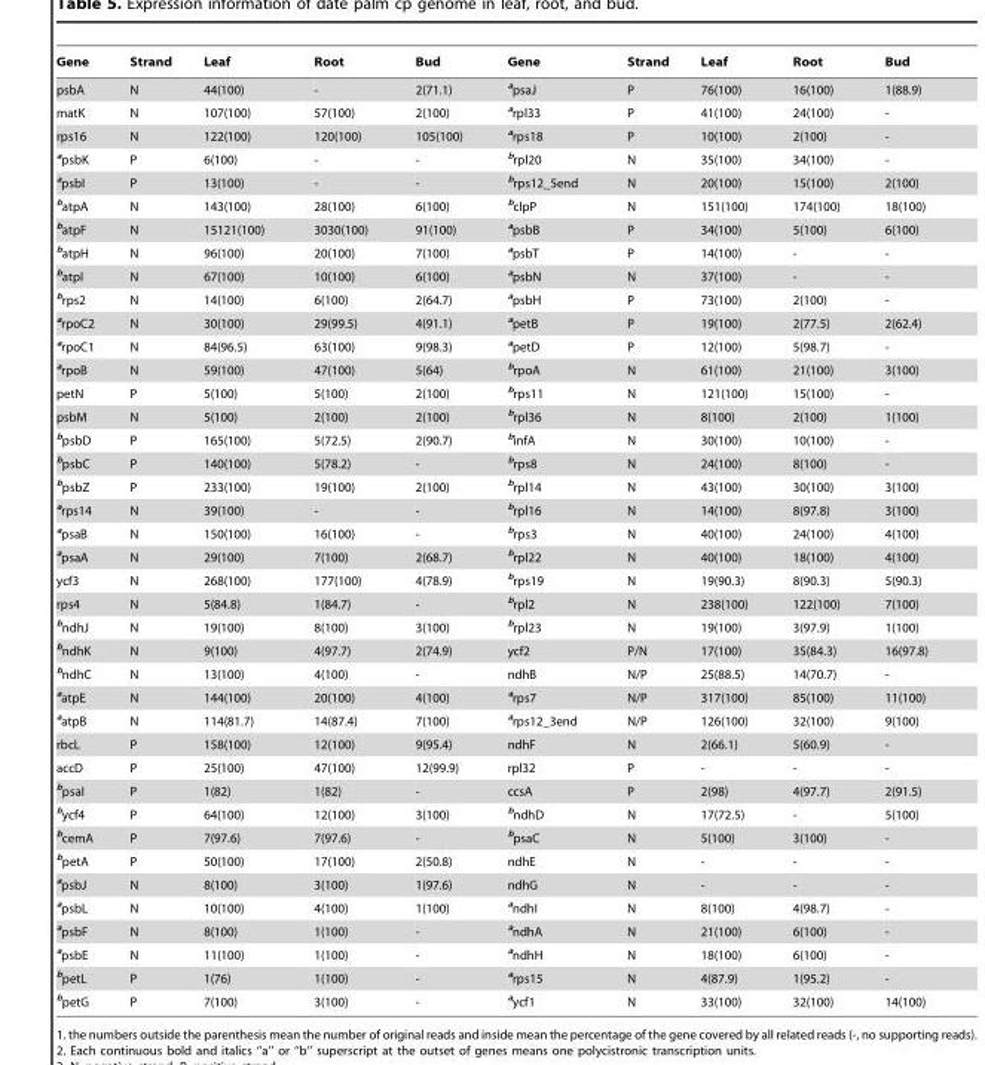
<table><thead><tr><td>Gene</td><td>Strand</td><td>Leaf</td><td>Root</td><td>Bud</td><td>Gene</td><td>Strand</td><td>Leaf</td><td>Root</td><td>Bud</td></tr></thead><tbody><tr><td>psbA</td><td>N</td><td>44(100)</td><td>-</td><td>2(71.1)</td><td><sup>a</sup>psaJ</td><td>P</td><td>76(100)</td><td>16(100)</td><td>1(88.9)</td></tr><tr><td>matK</td><td>N</td><td>107(100)</td><td>57(100)</td><td>2(100)</td><td><sup>a</sup>rpl33</td><td>P</td><td>41(100)</td><td>24(100)</td><td>-</td></tr><tr><td>rps16</td><td>N</td><td>122(100)</td><td>120(100)</td><td>105(100)</td><td><sup>a</sup>rps18</td><td>P</td><td>10(100)</td><td>2(100)</td><td>-</td></tr><tr><td><sup>a</sup>psbK</td><td>P</td><td>6(100)</td><td>-</td><td>-</td><td><sup>b</sup>rpl20</td><td>N</td><td>35(100)</td><td>34(100)</td><td>-</td></tr><tr><td><sup>a</sup>psbI</td><td>P</td><td>13(100)</td><td>-</td><td>-</td><td><sup>b</sup>rps12_5end</td><td>N</td><td>20(100)</td><td>15(100)</td><td>2(100)</td></tr><tr><td><sup>b</sup>atpA</td><td>N</td><td>143(100)</td><td>28(100)</td><td>6(100)</td><td><sup>b</sup>clpP</td><td>N</td><td>151(100)</td><td>174(100)</td><td>18(100)</td></tr><tr><td><sup>b</sup>atpF</td><td>N</td><td>15121(100)</td><td>3030(100)</td><td>91(100)</td><td><sup>a</sup>psbB</td><td>P</td><td>34(100)</td><td>5(100)</td><td>6(100)</td></tr><tr><td><sup>b</sup>atpH</td><td>N</td><td>96(100)</td><td>20(100)</td><td>7(100)</td><td><sup>a</sup>psbT</td><td>P</td><td>14(100)</td><td>-</td><td>-</td></tr><tr><td><sup>b</sup>atpI</td><td>N</td><td>67(100)</td><td>10(100)</td><td>6(100)</td><td><sup>a</sup>psbN</td><td>N</td><td>37(100)</td><td>-</td><td>-</td></tr><tr><td><sup>b</sup>rps2</td><td>N</td><td>14(100)</td><td>6(100)</td><td>2(64.7)</td><td><sup>a</sup>psbH</td><td>P</td><td>73(100)</td><td>2(100)</td><td>-</td></tr><tr><td><sup>a</sup>rpoC2</td><td>N</td><td>30(100)</td><td>29(99.5)</td><td>4(91.1)</td><td><sup>a</sup>petB</td><td>P</td><td>19(100)</td><td>2(77.5)</td><td>2(62.4)</td></tr><tr><td><sup>a</sup>rpoC1</td><td>N</td><td>84(96.5)</td><td>63(100)</td><td>9(98.3)</td><td><sup>a</sup>petD</td><td>P</td><td>12(100)</td><td>5(98.7)</td><td>-</td></tr><tr><td><sup>a</sup>rpoB</td><td>N</td><td>59(100)</td><td>47(100)</td><td>5(64)</td><td><sup>b</sup>rpoA</td><td>N</td><td>61(100)</td><td>21(100)</td><td>3(100)</td></tr><tr><td>petN</td><td>P</td><td>5(100)</td><td>5(100)</td><td>2(100)</td><td><sup>b</sup>rps11</td><td>N</td><td>121(100)</td><td>15(100)</td><td>-</td></tr><tr><td>psbM</td><td>N</td><td>5(100)</td><td>2(100)</td><td>2(100)</td><td><sup>b</sup>rpl36</td><td>N</td><td>8(100)</td><td>2(100)</td><td>1(100)</td></tr><tr><td><sup>b</sup>psbD</td><td>P</td><td>165(100)</td><td>5(72.5)</td><td>2(90.7)</td><td><sup>b</sup>infA</td><td>N</td><td>30(100)</td><td>10(100)</td><td>-</td></tr><tr><td><sup>b</sup>psbC</td><td>P</td><td>140(100)</td><td>5(78.2)</td><td>-</td><td><sup>b</sup>rps8</td><td>N</td><td>24(100)</td><td>8(100)</td><td>-</td></tr><tr><td><sup>b</sup>psbZ</td><td>P</td><td>233(100)</td><td>19(100)</td><td>2(100)</td><td><sup>b</sup>rpl14</td><td>N</td><td>43(100)</td><td>30(100)</td><td>3(100)</td></tr><tr><td><sup>a</sup>rps14</td><td>N</td><td>39(100)</td><td>-</td><td>-</td><td><sup>b</sup>rpl16</td><td>N</td><td>14(100)</td><td>8(97.8)</td><td>3(100)</td></tr><tr><td><sup>a</sup>psaB</td><td>N</td><td>150(100)</td><td>16(100)</td><td>-</td><td><sup>b</sup>rps3</td><td>N</td><td>40(100)</td><td>24(100)</td><td>4(100)</td></tr><tr><td><sup>a</sup>psaA</td><td>N</td><td>29(100)</td><td>7(100)</td><td>2(68.7)</td><td><sup>b</sup>rpl22</td><td>N</td><td>40(100)</td><td>18(100)</td><td>4(100)</td></tr><tr><td>ycf3</td><td>N</td><td>268(100)</td><td>177(100)</td><td>4(78.9)</td><td><sup>b</sup>rps19</td><td>N</td><td>19(90.3)</td><td>8(90.3)</td><td>5(90.3)</td></tr><tr><td>rps4</td><td>N</td><td>5(84.8)</td><td>1(84.7)</td><td>-</td><td><sup>b</sup>rpl2</td><td>N</td><td>238(100)</td><td>122(100)</td><td>7(100)</td></tr><tr><td><sup>b</sup>ndhJ</td><td>N</td><td>19(100)</td><td>8(100)</td><td>3(100)</td><td><sup>b</sup>rpl23</td><td>N</td><td>19(100)</td><td>3(97.9)</td><td>1(100)</td></tr><tr><td><sup>b</sup>ndhK</td><td>N</td><td>9(100)</td><td>4(97.7)</td><td>2(74.9)</td><td>ycf2</td><td>P/N</td><td>17(100)</td><td>35(84.3)</td><td>16(97.8)</td></tr><tr><td><sup>b</sup>ndhC</td><td>N</td><td>13(100)</td><td>4(100)</td><td>-</td><td>ndhB</td><td>N/P</td><td>25(88.5)</td><td>14(70.7)</td><td>-</td></tr><tr><td><sup>a</sup>atpE</td><td>N</td><td>144(100)</td><td>20(100)</td><td>4(100)</td><td><sup>a</sup>rps7</td><td>N/P</td><td>317(100)</td><td>85(100)</td><td>11(100)</td></tr><tr><td><sup>a</sup>atpB</td><td>N</td><td>114(81.7)</td><td>14(87.4)</td><td>7(100)</td><td><sup>a</sup>rps12_3end</td><td>N/P</td><td>126(100)</td><td>32(100)</td><td>9(100)</td></tr><tr><td>rbcL</td><td>P</td><td>158(100)</td><td>12(100)</td><td>9(95.4)</td><td>ndhF</td><td>N</td><td>2(66.1)</td><td>5(60.9)</td><td>-</td></tr><tr><td>accD</td><td>P</td><td>25(100)</td><td>47(100)</td><td>12(99.9)</td><td>rpl32</td><td>P</td><td>-</td><td>-</td><td>-</td></tr><tr><td><sup>b</sup>psaI</td><td>P</td><td>1(82)</td><td>1(82)</td><td>-</td><td>ccsA</td><td>P</td><td>2(98)</td><td>4(97.7)</td><td>2(91.5)</td></tr><tr><td><sup>b</sup>ycf4</td><td>P</td><td>64(100)</td><td>12(100)</td><td>3(100)</td><td><sup>b</sup>ndhD</td><td>N</td><td>17(72.5)</td><td>-</td><td>5(100)</td></tr><tr><td><sup>b</sup>cemA</td><td>P</td><td>7(97.6)</td><td>7(97.6)</td><td>-</td><td><sup>b</sup>psaC</td><td>N</td><td>5(100)</td><td>3(100)</td><td>-</td></tr><tr><td><sup>b</sup>petA</td><td>P</td><td>50(100)</td><td>17(100)</td><td>2(50.8)</td><td>ndhE</td><td>N</td><td>-</td><td>-</td><td>-</td></tr><tr><td><sup>a</sup>psbJ</td><td>N</td><td>8(100)</td><td>3(100)</td><td>1(97.6)</td><td>ndhG</td><td>N</td><td>-</td><td>-</td><td>-</td></tr><tr><td><sup>a</sup>psbL</td><td>N</td><td>10(100)</td><td>4(100)</td><td>1(100)</td><td><sup>a</sup>ndhI</td><td>N</td><td>8(100)</td><td>4(98.7)</td><td>-</td></tr><tr><td><sup>a</sup>psbF</td><td>N</td><td>8(100)</td><td>1(100)</td><td>-</td><td><sup>a</sup>ndhA</td><td>N</td><td>21(100)</td><td>6(100)</td><td>-</td></tr><tr><td><sup>a</sup>psbE</td><td>N</td><td>11(100)</td><td>1(100)</td><td>-</td><td><sup>a</sup>ndhH</td><td>N</td><td>18(100)</td><td>6(100)</td><td>-</td></tr><tr><td><sup>b</sup>petL</td><td>P</td><td>1(76)</td><td>1(100)</td><td>-</td><td><sup>a</sup>rps15</td><td>N</td><td>4(87.9)</td><td>1(95.2)</td><td>-</td></tr><tr><td><sup>b</sup>petG</td><td>P</td><td>7(100)</td><td>3(100)</td><td>-</td><td><sup>a</sup>ycf1</td><td>N</td><td>33(100)</td><td>32(100)</td><td>14(100)</td></tr></tbody></table>